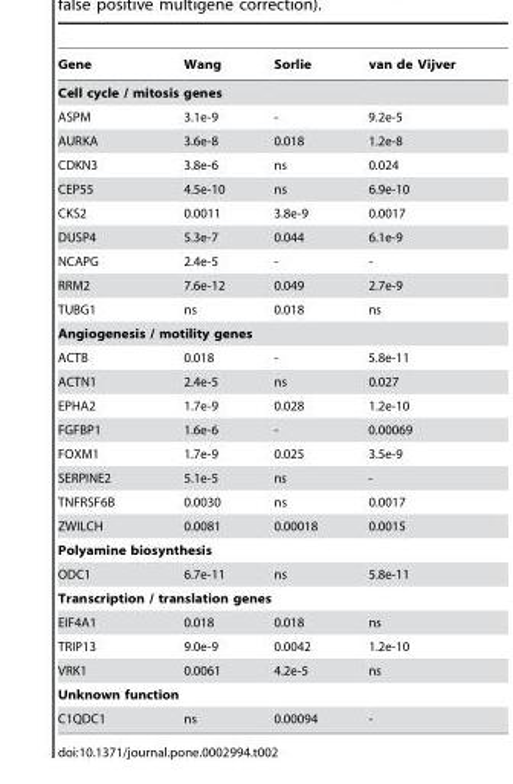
<table><thead><tr><td>Gene</td><td>Wang</td><td>Sorlie</td><td>van de Vijver</td></tr></thead><tbody><tr><td colspan="4">Cell cycle / mitosis genes</td></tr><tr><td>ASPM</td><td>3.1e-9</td><td>-</td><td>9.2e-5</td></tr><tr><td>AURKA</td><td>3.6e-8</td><td>0.018</td><td>1.2e-8</td></tr><tr><td>CDKN3</td><td>3.8e-6</td><td>ns</td><td>0.024</td></tr><tr><td>CEP55</td><td>4.5e-10</td><td>ns</td><td>6.9e-10</td></tr><tr><td>CKS2</td><td>0.0011</td><td>3.8e-9</td><td>0.0017</td></tr><tr><td>DUSP4</td><td>5.3e-7</td><td>0.044</td><td>6.1e-9</td></tr><tr><td>NCAPG</td><td>2.4e-5</td><td>-</td><td>-</td></tr><tr><td>RRM2</td><td>7.6e-12</td><td>0.049</td><td>2.7e-9</td></tr><tr><td>TUBG1</td><td>ns</td><td>0.018</td><td>ns</td></tr><tr><td colspan="4">Angiogenesis / motility genes</td></tr><tr><td>ACTB</td><td>0.018</td><td>-</td><td>5.8e-11</td></tr><tr><td>ACTN1</td><td>2.4e-5</td><td>ns</td><td>0.027</td></tr><tr><td>EPHA2</td><td>1.7e-9</td><td>0.028</td><td>1.2e-10</td></tr><tr><td>FGFBP1</td><td>1.6e-6</td><td>-</td><td>0.00069</td></tr><tr><td>FOXM1</td><td>1.7e-9</td><td>0.025</td><td>3.5e-9</td></tr><tr><td>SERPINE2</td><td>5.1e-5</td><td>ns</td><td>-</td></tr><tr><td>TNFRSF6B</td><td>0.0030</td><td>ns</td><td>0.0017</td></tr><tr><td>ZWILCH</td><td>0.0081</td><td>0.00018</td><td>0.0015</td></tr><tr><td colspan="4">Polyamine biosynthesis</td></tr><tr><td>ODC1</td><td>6.7e-11</td><td>ns</td><td>5.8e-11</td></tr><tr><td colspan="4">Transcription / translation genes</td></tr><tr><td>EIF4A1</td><td>0.018</td><td>0.018</td><td>ns</td></tr><tr><td>TRIP13</td><td>9.0e-9</td><td>0.0042</td><td>1.2e-10</td></tr><tr><td>VRK1</td><td>0.0061</td><td>4.2e-5</td><td>ns</td></tr><tr><td colspan="4">Unknown function</td></tr><tr><td>C1QDC1</td><td>ns</td><td>0.00094</td><td>-</td></tr></tbody></table>